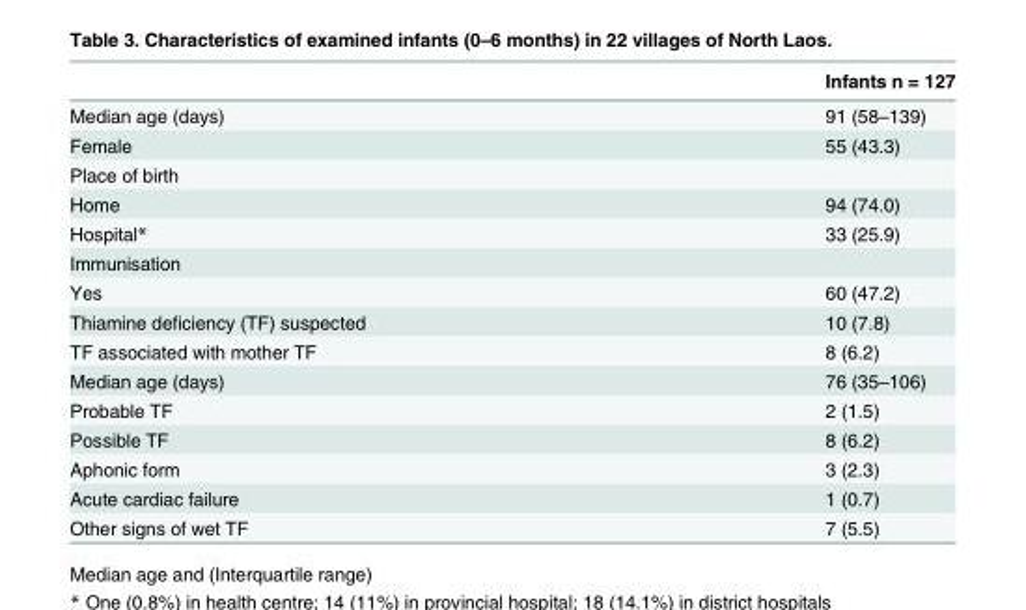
<table><thead><tr><td></td><td>Infants n = 127</td></tr></thead><tbody><tr><td>Median age (days)</td><td>91 (58–139)</td></tr><tr><td>Female</td><td>55 (43.3)</td></tr><tr><td colspan="2">Place of birth</td></tr><tr><td>Home</td><td>94 (74.0)</td></tr><tr><td>Hospital*</td><td>33 (25.9)</td></tr><tr><td colspan="2">Immunisation</td></tr><tr><td>Yes</td><td>60 (47.2)</td></tr><tr><td>Thiamine deficiency (TF) suspected</td><td>10 (7.8)</td></tr><tr><td>TF associated with mother TF</td><td>8 (6.2)</td></tr><tr><td>Median age (days)</td><td>76 (35–106)</td></tr><tr><td>Probable TF</td><td>2 (1.5)</td></tr><tr><td>Possible TF</td><td>8 (6.2)</td></tr><tr><td>Aphonic form</td><td>3 (2.3)</td></tr><tr><td>Acute cardiac failure</td><td>1 (0.7)</td></tr><tr><td>Other signs of wet TF</td><td>7 (5.5)</td></tr></tbody></table>